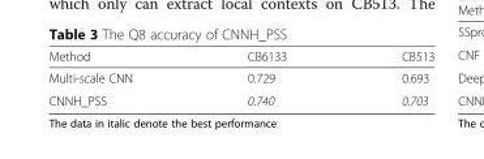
<table><thead><tr><td>Method</td><td>CB6133</td><td>CB513</td></tr></thead><tbody><tr><td>Multi-scale CNN</td><td>0.729</td><td>0.693</td></tr><tr><td>CNNH_PSS</td><td>0.740</td><td>0.703</td></tr></tbody></table>